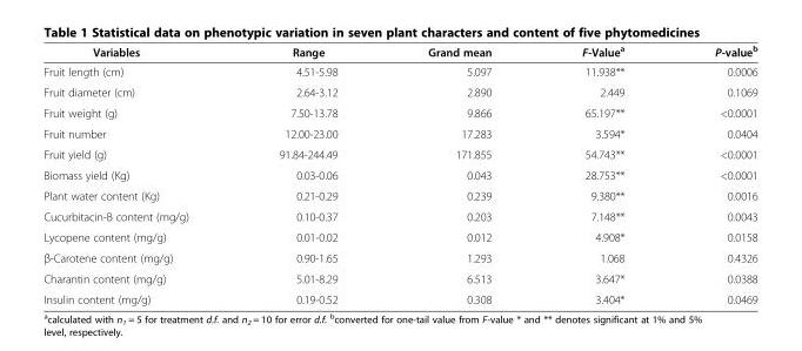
<table><thead><tr><td>Variables</td><td>Range</td><td>Grand mean</td><td>F-Value<sup>a</sup></td><td>P-value<sup>b</sup></td></tr></thead><tbody><tr><td>Fruit length (cm)</td><td>4.51-5.98</td><td>5.097</td><td>11.938**</td><td>0.0006</td></tr><tr><td>Fruit diameter (cm)</td><td>2.64-3.12</td><td>2.890</td><td>2.449</td><td>0.1069</td></tr><tr><td>Fruit weight (g)</td><td>7.50-13.78</td><td>9.866</td><td>65.197**</td><td>&lt;0.0001</td></tr><tr><td>Fruit number</td><td>12.00-23.00</td><td>17.283</td><td>3.594*</td><td>0.0404</td></tr><tr><td>Fruit yield (g)</td><td>91.84-244.49</td><td>171.855</td><td>54.743**</td><td>&lt;0.0001</td></tr><tr><td>Biomass yield (Kg)</td><td>0.03-0.06</td><td>0.043</td><td>28.753**</td><td>&lt;0.0001</td></tr><tr><td>Plant water content (Kg)</td><td>0.21-0.29</td><td>0.239</td><td>9.380**</td><td>0.0016</td></tr><tr><td>Cucurbitacin-B content (mg/g)</td><td>0.10-0.37</td><td>0.203</td><td>7.148**</td><td>0.0043</td></tr><tr><td>Lycopene content (mg/g)</td><td>0.01-0.02</td><td>0.012</td><td>4.908*</td><td>0.0158</td></tr><tr><td>β-Carotene content (mg/g)</td><td>0.90-1.65</td><td>1.293</td><td>1.068</td><td>0.4326</td></tr><tr><td>Charantin content (mg/g)</td><td>5.01-8.29</td><td>6.513</td><td>3.647*</td><td>0.0388</td></tr><tr><td>Insulin content (mg/g)</td><td>0.19-0.52</td><td>0.308</td><td>3.404*</td><td>0.0469</td></tr></tbody></table>